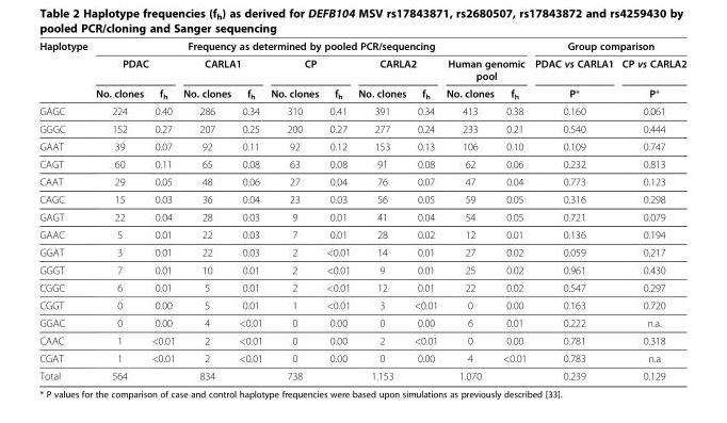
<table><thead><tr><td rowspan="3">Haplotype</td><td colspan="10">Frequency as determined by pooled PCR/sequencing</td><td colspan="2">Group comparison</td></tr><tr><td colspan="2">PDAC</td><td colspan="2">CARLA1</td><td colspan="2">CP</td><td colspan="2">CARLA2</td><td colspan="2">Human genomic pool</td><td rowspan="2">PDAC vs CARLA1 P*</td><td rowspan="2">CP vs CARLA2 P*</td></tr><tr><td>No. clones</td><td>f<sub>h</sub></td><td>No. clones</td><td>f<sub>h</sub></td><td>No. clones</td><td>f<sub>h</sub></td><td>No. clones</td><td>f<sub>h</sub></td><td>No. clones</td><td>f<sub>h</sub></td></tr></thead><tbody><tr><td>GAGC</td><td>224</td><td>0.40</td><td>286</td><td>0.34</td><td>310</td><td>0.41</td><td>391</td><td>0.34</td><td>413</td><td>0.38</td><td>0.160</td><td>0.061</td></tr><tr><td>GGGC</td><td>152</td><td>0.27</td><td>207</td><td>0.25</td><td>200</td><td>0.27</td><td>277</td><td>0.24</td><td>233</td><td>0.21</td><td>0.540</td><td>0.444</td></tr><tr><td>GAAT</td><td>39</td><td>0.07</td><td>92</td><td>0.11</td><td>92</td><td>0.12</td><td>153</td><td>0.13</td><td>106</td><td>0.10</td><td>0.109</td><td>0.747</td></tr><tr><td>CAGT</td><td>60</td><td>0.11</td><td>65</td><td>0.08</td><td>63</td><td>0.08</td><td>91</td><td>0.08</td><td>62</td><td>0.06</td><td>0.232</td><td>0.813</td></tr><tr><td>CAAT</td><td>29</td><td>0.05</td><td>48</td><td>0.06</td><td>27</td><td>0.04</td><td>76</td><td>0.07</td><td>47</td><td>0.04</td><td>0.773</td><td>0.123</td></tr><tr><td>CAGC</td><td>15</td><td>0.03</td><td>36</td><td>0.04</td><td>23</td><td>0.03</td><td>56</td><td>0.05</td><td>59</td><td>0.05</td><td>0.316</td><td>0.298</td></tr><tr><td>GAGT</td><td>22</td><td>0.04</td><td>28</td><td>0.03</td><td>9</td><td>0.01</td><td>41</td><td>0.04</td><td>54</td><td>0.05</td><td>0.721</td><td>0.079</td></tr><tr><td>GAAC</td><td>5</td><td>0.01</td><td>22</td><td>0.03</td><td>7</td><td>0.01</td><td>28</td><td>0.02</td><td>12</td><td>0.01</td><td>0.136</td><td>0.194</td></tr><tr><td>GGAT</td><td>3</td><td>0.01</td><td>22</td><td>0.03</td><td>2</td><td>&lt;0.01</td><td>14</td><td>0.01</td><td>27</td><td>0.02</td><td>0.059</td><td>0.217</td></tr><tr><td>GGGT</td><td>7</td><td>0.01</td><td>10</td><td>0.01</td><td>2</td><td>&lt;0.01</td><td>9</td><td>0.01</td><td>25</td><td>0.02</td><td>0.961</td><td>0.430</td></tr><tr><td>CGGC</td><td>6</td><td>0.01</td><td>5</td><td>0.01</td><td>2</td><td>&lt;0.01</td><td>12</td><td>0.01</td><td>22</td><td>0.02</td><td>0.547</td><td>0.297</td></tr><tr><td>CGGT</td><td>0</td><td>0.00</td><td>5</td><td>0.01</td><td>1</td><td>&lt;0.01</td><td>3</td><td>&lt;0.01</td><td>0</td><td>0.00</td><td>0.163</td><td>0.720</td></tr><tr><td>GGAC</td><td>0</td><td>0.00</td><td>4</td><td>&lt;0.01</td><td>0</td><td>0.00</td><td>0</td><td>0.00</td><td>6</td><td>0.01</td><td>0.222</td><td>n.a.</td></tr><tr><td>CAAC</td><td>1</td><td>&lt;0.01</td><td>2</td><td>&lt;0.01</td><td>0</td><td>0.00</td><td>2</td><td>&lt;0.01</td><td>0</td><td>0.00</td><td>0.781</td><td>0.318</td></tr><tr><td>CGAT</td><td>1</td><td>&lt;0.01</td><td>2</td><td>&lt;0.01</td><td>0</td><td>0.00</td><td>0</td><td>0.00</td><td>4</td><td>&lt;0.01</td><td>0.783</td><td>n.a</td></tr><tr><td>Total</td><td>564</td><td></td><td>834</td><td></td><td>738</td><td></td><td>1.153</td><td></td><td>1.070</td><td></td><td>0.239</td><td>0.129</td></tr></tbody></table>